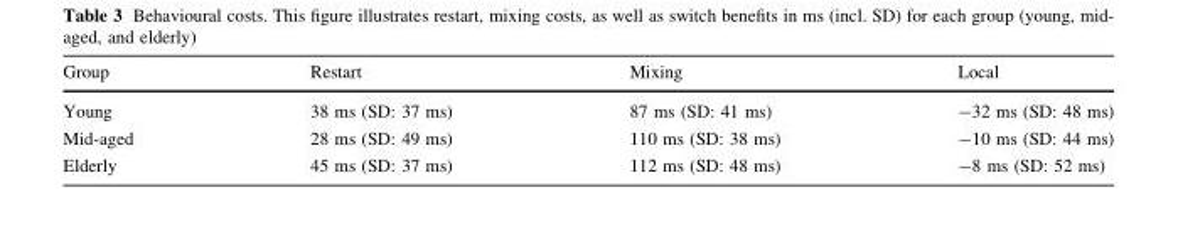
<table><thead><tr><td>Group</td><td>Restart</td><td>Mixing</td><td>Local</td></tr></thead><tbody><tr><td>Young</td><td>38 ms (SD: 37 ms)</td><td>87 ms (SD: 41 ms)</td><td>-32 ms (SD: 48 ms)</td></tr><tr><td>Mid-aged</td><td>28 ms (SD: 49 ms)</td><td>110 ms (SD: 38 ms)</td><td>-10 ms (SD: 44 ms)</td></tr><tr><td>Elderly</td><td>45 ms (SD: 37 ms)</td><td>112 ms (SD: 48 ms)</td><td>-8 ms (SD: 52 ms)</td></tr></tbody></table>